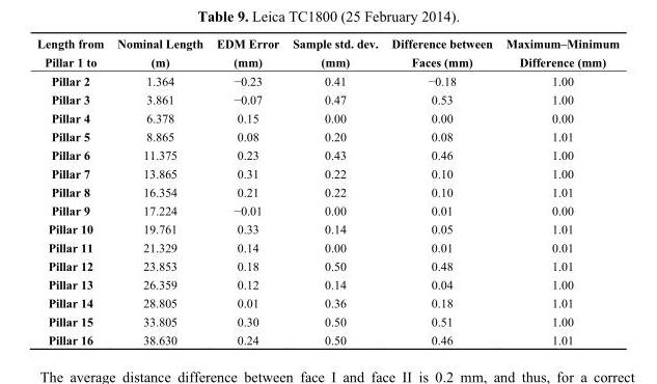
<table><thead><tr><td>Length from Pillar 1 to</td><td>Nominal Length (m)</td><td>EDM Error (mm)</td><td>Sample std. dev. (mm)</td><td>Difference between Faces (mm)</td><td>Maximum–Minimum Difference (mm)</td></tr></thead><tbody><tr><td>Pillar 2</td><td>1.364</td><td>−0.23</td><td>0.41</td><td>−0.18</td><td>1.00</td></tr><tr><td>Pillar 3</td><td>3.861</td><td>−0.07</td><td>0.47</td><td>0.53</td><td>1.00</td></tr><tr><td>Pillar 4</td><td>6.378</td><td>0.15</td><td>0.00</td><td>0.00</td><td>0.00</td></tr><tr><td>Pillar 5</td><td>8.865</td><td>0.08</td><td>0.20</td><td>0.08</td><td>1.01</td></tr><tr><td>Pillar 6</td><td>11.375</td><td>0.23</td><td>0.43</td><td>0.46</td><td>1.00</td></tr><tr><td>Pillar 7</td><td>13.865</td><td>0.31</td><td>0.22</td><td>0.10</td><td>1.00</td></tr><tr><td>Pillar 8</td><td>16.354</td><td>0.21</td><td>0.22</td><td>0.10</td><td>1.01</td></tr><tr><td>Pillar 9</td><td>17.224</td><td>−0.01</td><td>0.00</td><td>0.01</td><td>0.00</td></tr><tr><td>Pillar 10</td><td>19.761</td><td>0.33</td><td>0.14</td><td>0.05</td><td>1.01</td></tr><tr><td>Pillar 11</td><td>21.329</td><td>0.14</td><td>0.00</td><td>0.01</td><td>0.01</td></tr><tr><td>Pillar 12</td><td>23.853</td><td>0.18</td><td>0.50</td><td>0.48</td><td>1.01</td></tr><tr><td>Pillar 13</td><td>26.359</td><td>0.12</td><td>0.14</td><td>0.04</td><td>1.00</td></tr><tr><td>Pillar 14</td><td>28.805</td><td>0.01</td><td>0.36</td><td>0.18</td><td>1.01</td></tr><tr><td>Pillar 15</td><td>33.805</td><td>0.30</td><td>0.50</td><td>0.51</td><td>1.00</td></tr><tr><td>Pillar 16</td><td>38.630</td><td>0.24</td><td>0.50</td><td>0.46</td><td>1.01</td></tr></tbody></table>